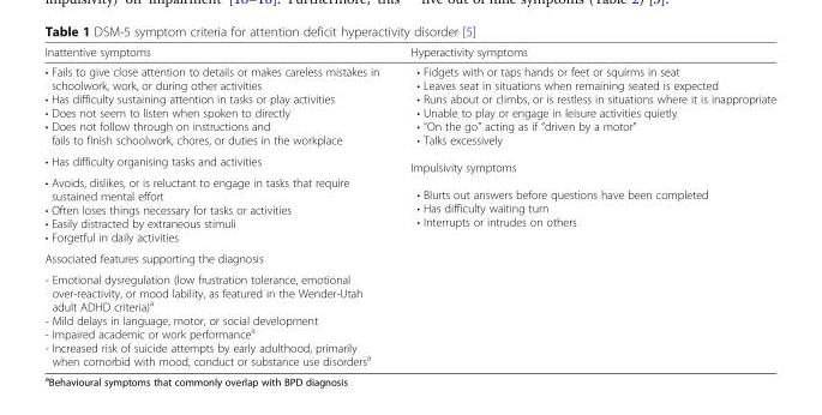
<table><thead><tr><td>Inattentive symptoms</td><td>Hyperactivity symptoms</td></tr></thead><tbody><tr><td>• Fails to give close attention to details or makes careless mistakes in schoolwork, work, or during other activities • Has difficulty sustaining attention in tasks or play activities • Does not seem to listen when spoken to directly • Does not follow through on instructions and fails to finish schoolwork, chores, or duties in the workplace</td><td rowspan="3">• Fidgets with or taps hands or feet or squirms in seat • Leaves seat in situations when remaining seated is expected • Runs about or climbs, or is restless in situations where it is inappropriate • Unable to play or engage in leisure activities quietly • “On the go” acting as if “driven by a motor” • Talks excessively Impulsivity symptoms • Blurts out answers before questions have been completed • Has difficulty waiting turn • Interrupts or intrudes on others</td></tr><tr><td>• Has difficulty organising tasks and activities</td></tr><tr><td>• Avoids, dislikes, or is reluctant to engage in tasks that require sustained mental effort • Often loses things necessary for tasks or activities • Easily distracted by extraneous stimuli • Forgetful in daily activities</td></tr><tr><td colspan="2">Associated features supporting the diagnosis</td></tr><tr><td colspan="2">- Emotional dysregulation (low frustration tolerance, emotional over-reactivity, or mood lability, as featured in the Wender-Utah adult ADHD criteria)<sup>a</sup> - Mild delays in language, motor, or social development - Impaired academic or work performance<sup>a</sup> - Increased risk of suicide attempts by early adulthood, primarily when comorbid with mood, conduct or substance use disorders<sup>a</sup></td></tr></tbody></table>